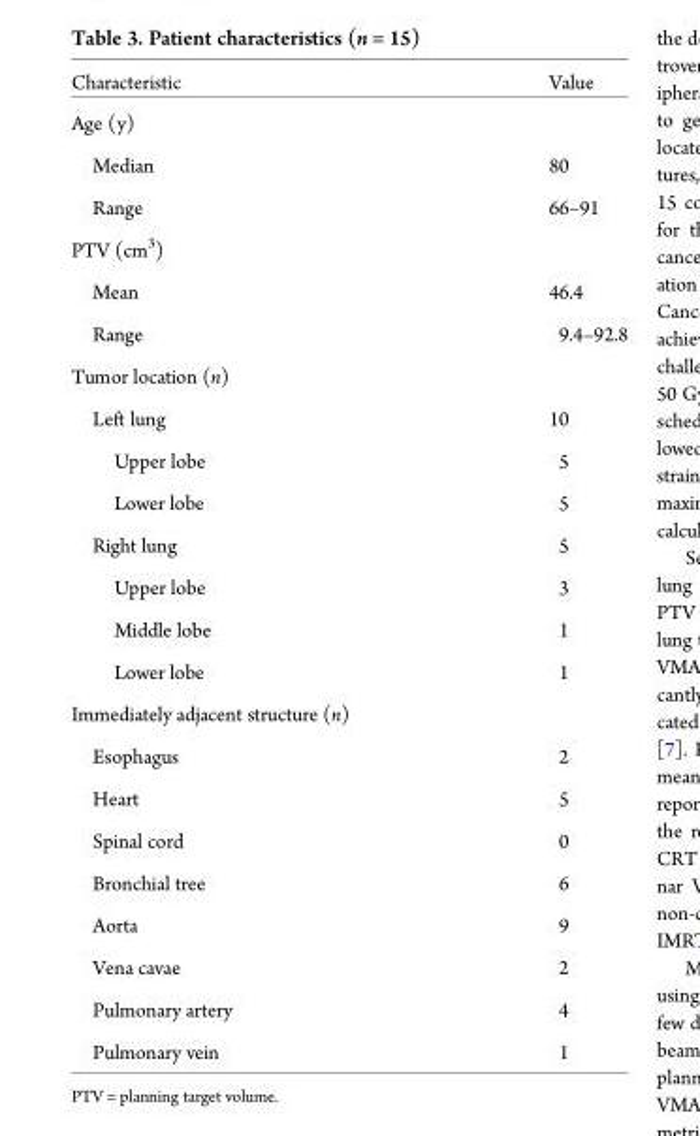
<table><thead><tr><td>Characteristic</td><td>Value</td></tr></thead><tbody><tr><td colspan="2">Age (y)</td></tr><tr><td>Median</td><td>80</td></tr><tr><td>Range</td><td>66–91</td></tr><tr><td colspan="2">PTV (cm<sup>3</sup>)</td></tr><tr><td>Mean</td><td>46.4</td></tr><tr><td>Range</td><td>9.4–92.8</td></tr><tr><td colspan="2">Tumor location (n)</td></tr><tr><td>Left lung</td><td>10</td></tr><tr><td>Upper lobe</td><td>5</td></tr><tr><td>Lower lobe</td><td>5</td></tr><tr><td>Right lung</td><td>5</td></tr><tr><td>Upper lobe</td><td>3</td></tr><tr><td>Middle lobe</td><td>1</td></tr><tr><td>Lower lobe</td><td>1</td></tr><tr><td colspan="2">Immediately adjacent structure (n)</td></tr><tr><td>Esophagus</td><td>2</td></tr><tr><td>Heart</td><td>5</td></tr><tr><td>Spinal cord</td><td>0</td></tr><tr><td>Bronchial tree</td><td>6</td></tr><tr><td>Aorta</td><td>9</td></tr><tr><td>Vena cavae</td><td>2</td></tr><tr><td>Pulmonary artery</td><td>4</td></tr><tr><td>Pulmonary vein</td><td>1</td></tr></tbody></table>